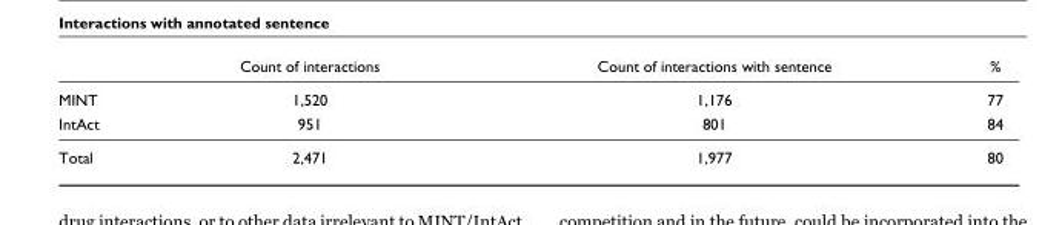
<table><thead><tr><td></td><td>Count of interactions</td><td>Count of interactions with sentence</td><td>%</td></tr></thead><tbody><tr><td>MINT</td><td>1,520</td><td>1,176</td><td>77</td></tr><tr><td>IntAct</td><td>951</td><td>801</td><td>84</td></tr><tr><td>Total</td><td>2,471</td><td>1,977</td><td>80</td></tr></tbody></table>